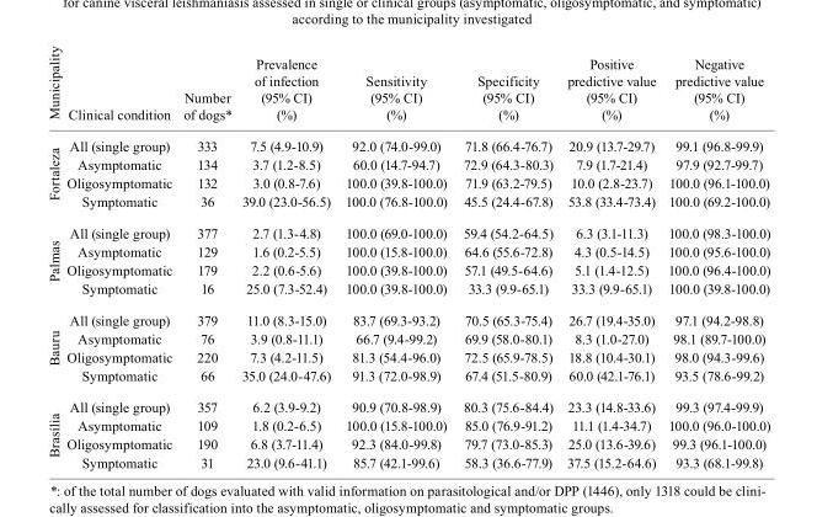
<table><tbody><tr><td>Municipality</td><td>Clinical condition</td><td>Number of dogs*</td><td>Prevalence of infection (95% CI) (%)</td><td>Sensitivity (95% CI) (%)</td><td>Specificity (95% CI) (%)</td><td>Positive predictive value (95% CI) (%)</td><td>Negative predictive value (95% CI) (%)</td></tr><tr><td rowspan="4">Fortaleza</td><td>All (single group)</td><td>333</td><td>7.5 (4.9-10.9)</td><td>92.0 (74.0-99.0)</td><td>71.8 (66.4-76.7)</td><td>20.9 (13.7-29.7)</td><td>99.1 (96.8-99.9)</td></tr><tr><td>Asymptomatic</td><td>134</td><td>3.7 (1.2-8.5)</td><td>60.0 (14.7-94.7)</td><td>72.9 (64.3-80.3)</td><td>7.9 (1.7-21.4)</td><td>97.9 (92.7-99.7)</td></tr><tr><td>Oligosymptomatic</td><td>132</td><td>3.0 (0.8-7.6)</td><td>100.0 (39.8-100.0)</td><td>71.9 (63.2-79.5)</td><td>10.0 (2.8-23.7)</td><td>100.0 (96.1-100.0)</td></tr><tr><td>Symptomatic</td><td>36</td><td>39.0 (23.0-56.5)</td><td>100.0 (76.8-100.0)</td><td>45.5 (24.4-67.8)</td><td>53.8 (33.4-73.4)</td><td>100.0 (69.2-100.0)</td></tr><tr><td rowspan="4">Palmas</td><td>All (single group)</td><td>377</td><td>2.7 (1.3-4.8)</td><td>100.0 (69.0-100.0)</td><td>59.4 (54.2-64.5)</td><td>6.3 (3.1-11.3)</td><td>100.0 (98.3-100.0)</td></tr><tr><td>Asymptomatic</td><td>129</td><td>1.6 (0.2-5.5)</td><td>100.0 (15.8-100.0)</td><td>64.6 (55.6-72.8)</td><td>4.3 (0.5-14.5)</td><td>100.0 (95.6-100.0)</td></tr><tr><td>Oligosymptomatic</td><td>179</td><td>2.2 (0.6-5.6)</td><td>100.0 (39.8-100.0)</td><td>57.1 (49.5-64.6)</td><td>5.1 (1.4-12.5)</td><td>100.0 (96.4-100.0)</td></tr><tr><td>Symptomatic</td><td>16</td><td>25.0 (7.3-52.4)</td><td>100.0 (39.8-100.0)</td><td>33.3 (9.9-65.1)</td><td>33.3 (9.9-65.1)</td><td>100.0 (39.8-100.0)</td></tr><tr><td rowspan="4">Bauru</td><td>All (single group)</td><td>379</td><td>11.0 (8.3-15.0)</td><td>83.7 (69.3-93.2)</td><td>70.5 (65.3-75.4)</td><td>26.7 (19.4-35.0)</td><td>97.1 (94.2-98.8)</td></tr><tr><td>Asymptomatic</td><td>76</td><td>3.9 (0.8-11.1)</td><td>66.7 (9.4-99.2)</td><td>69.9 (58.0-80.1)</td><td>8.3 (1.0-27.0)</td><td>98.1 (89.7-100.0)</td></tr><tr><td>Oligosymptomatic</td><td>220</td><td>7.3 (4.2-11.5)</td><td>81.3 (54.4-96.0)</td><td>72.5 (65.9-78.5)</td><td>18.8 (10.4-30.1)</td><td>98.0 (94.3-99.6)</td></tr><tr><td>Symptomatic</td><td>66</td><td>35.0 (24.0-47.6)</td><td>91.3 (72.0-98.9)</td><td>67.4 (51.5-80.9)</td><td>60.0 (42.1-76.1)</td><td>93.5 (78.6-99.2)</td></tr><tr><td rowspan="4">Brasília</td><td>All (single group)</td><td>357</td><td>6.2 (3.9-9.2)</td><td>90.9 (70.8-98.9)</td><td>80.3 (75.6-84.4)</td><td>23.3 (14.8-33.6)</td><td>99.3 (97.4-99.9)</td></tr><tr><td>Asymptomatic</td><td>109</td><td>1.8 (0.2-6.5)</td><td>100.0 (15.8-100.0)</td><td>85.0 (76.9-91.2)</td><td>11.1 (1.4-34.7)</td><td>100.0 (96.0-100.0)</td></tr><tr><td>Oligosymptomatic</td><td>190</td><td>6.8 (3.7-11.4)</td><td>92.3 (84.0-99.8)</td><td>79.7 (73.0-85.3)</td><td>25.0 (13.6-39.6)</td><td>99.3 (96.1-100.0)</td></tr><tr><td>Symptomatic</td><td>31</td><td>23.0 (9.6-41.1)</td><td>85.7 (42.1-99.6)</td><td>58.3 (36.6-77.9)</td><td>37.5 (15.2-64.6)</td><td>93.3 (68.1-99.8)</td></tr></tbody></table>